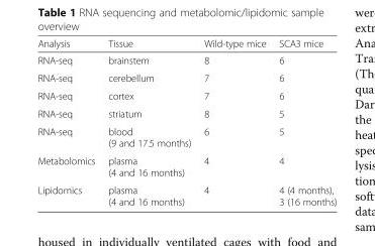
<table><thead><tr><td>Analysis</td><td>Tissue</td><td>Wild-type mice</td><td>SCA3 mice</td></tr></thead><tbody><tr><td>RNA-seq</td><td>brainstem</td><td>8</td><td>6</td></tr><tr><td>RNA-seq</td><td>cerebellum</td><td>7</td><td>6</td></tr><tr><td>RNA-seq</td><td>cortex</td><td>7</td><td>6</td></tr><tr><td>RNA-seq</td><td>striatum</td><td>8</td><td>5</td></tr><tr><td>RNA-seq</td><td>blood (9 and 17.5 months)</td><td>6</td><td>5</td></tr><tr><td>Metabolomics</td><td>plasma (4 and 16 months)</td><td>4</td><td>4</td></tr><tr><td>Lipidomics</td><td>plasma (4 and 16 months)</td><td>4</td><td>4 (4 months), 3 (16 months)</td></tr></tbody></table>